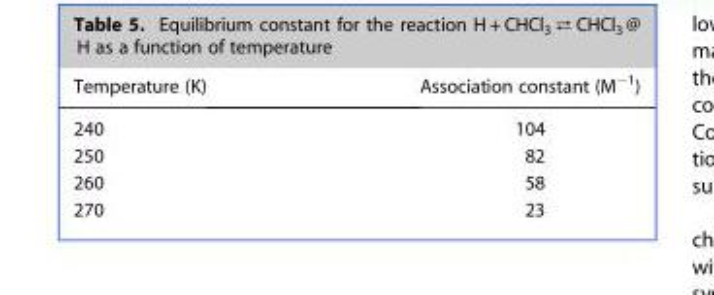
<table><thead><tr><td>Temperature (K)</td><td>Association constant (M<sup>−1</sup>)</td></tr></thead><tbody><tr><td>240</td><td>104</td></tr><tr><td>250</td><td>82</td></tr><tr><td>260</td><td>58</td></tr><tr><td>270</td><td>23</td></tr></tbody></table>